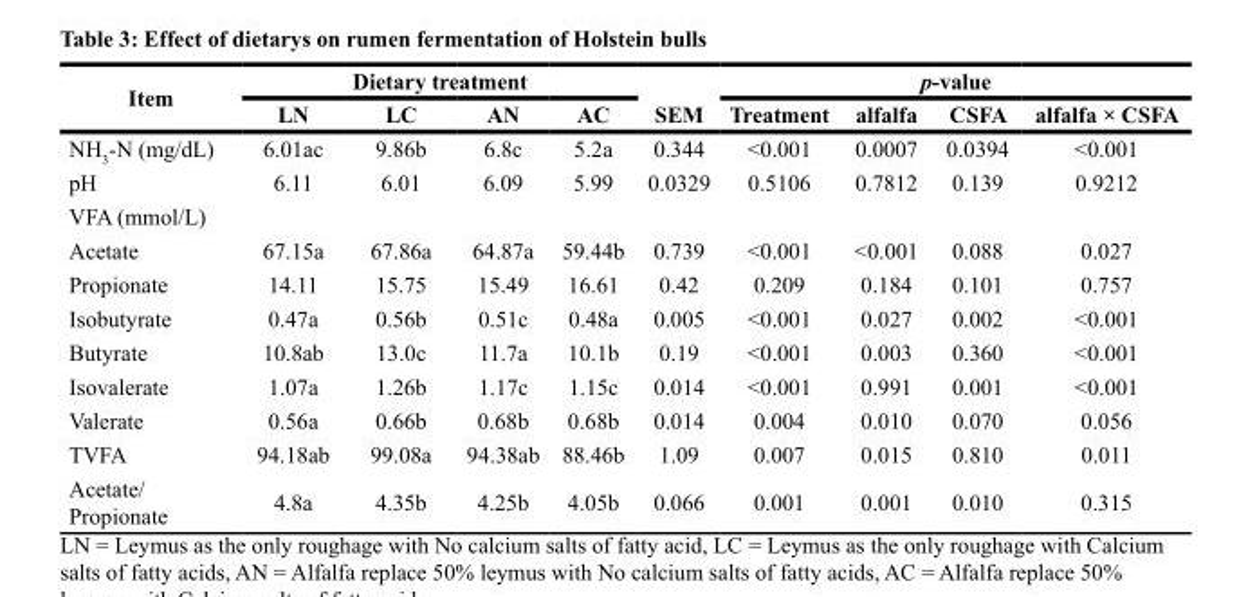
<table><thead><tr><td rowspan="2">Item</td><td colspan="4">Dietary treatment</td><td rowspan="2">SEM</td><td colspan="4">p-value</td></tr><tr><td>LN</td><td>LC</td><td>AN</td><td>AC</td><td>Treatment</td><td>alfalfa</td><td>CSFA</td><td>alfalfa × CSFA</td></tr></thead><tbody><tr><td>NH<sub>3</sub>-N (mg/dL)</td><td>6.01ac</td><td>9.86b</td><td>6.8c</td><td>5.2a</td><td>0.344</td><td>&lt;0.001</td><td>0.0007</td><td>0.0394</td><td>&lt;0.001</td></tr><tr><td>pH</td><td>6.11</td><td>6.01</td><td>6.09</td><td>5.99</td><td>0.0329</td><td>0.5106</td><td>0.7812</td><td>0.139</td><td>0.9212</td></tr><tr><td colspan="10">VFA (mmol/L)</td></tr><tr><td>Acetate</td><td>67.15a</td><td>67.86a</td><td>64.87a</td><td>59.44b</td><td>0.739</td><td>&lt;0.001</td><td>&lt;0.001</td><td>0.088</td><td>0.027</td></tr><tr><td>Propionate</td><td>14.11</td><td>15.75</td><td>15.49</td><td>16.61</td><td>0.42</td><td>0.209</td><td>0.184</td><td>0.101</td><td>0.757</td></tr><tr><td>Isobutyrate</td><td>0.47a</td><td>0.56b</td><td>0.51c</td><td>0.48a</td><td>0.005</td><td>&lt;0.001</td><td>0.027</td><td>0.002</td><td>&lt;0.001</td></tr><tr><td>Butyrate</td><td>10.8ab</td><td>13.0c</td><td>11.7a</td><td>10.1b</td><td>0.19</td><td>&lt;0.001</td><td>0.003</td><td>0.360</td><td>&lt;0.001</td></tr><tr><td>Isovalerate</td><td>1.07a</td><td>1.26b</td><td>1.17c</td><td>1.15c</td><td>0.014</td><td>&lt;0.001</td><td>0.991</td><td>0.001</td><td>&lt;0.001</td></tr><tr><td>Valerate</td><td>0.56a</td><td>0.66b</td><td>0.68b</td><td>0.68b</td><td>0.014</td><td>0.004</td><td>0.010</td><td>0.070</td><td>0.056</td></tr><tr><td>TVFA</td><td>94.18ab</td><td>99.08a</td><td>94.38ab</td><td>88.46b</td><td>1.09</td><td>0.007</td><td>0.015</td><td>0.810</td><td>0.011</td></tr><tr><td>Acetate/ Propionate</td><td>4.8a</td><td>4.35b</td><td>4.25b</td><td>4.05b</td><td>0.066</td><td>0.001</td><td>0.001</td><td>0.010</td><td>0.315</td></tr></tbody></table>